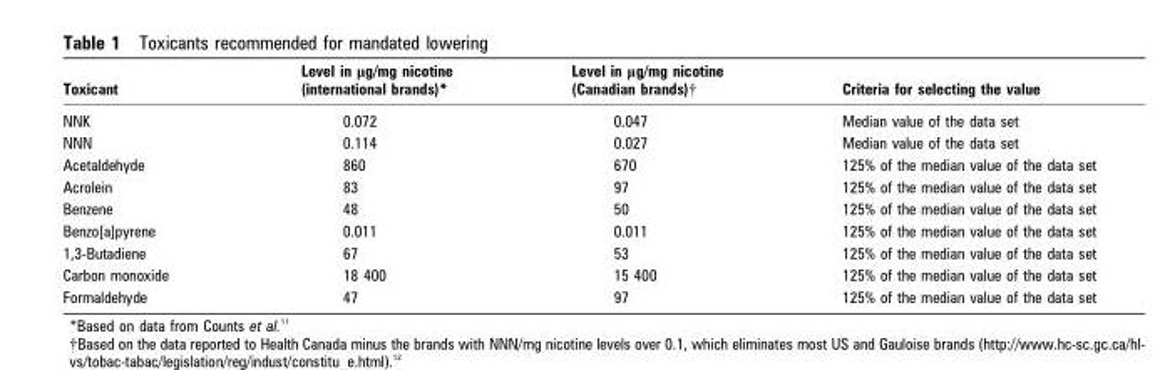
<table><thead><tr><td>Toxicant</td><td>Level in μg/mg nicotine (international brands)*</td><td>Level in μg/mg nicotine (Canadian brands)†</td><td>Criteria for selecting the value</td></tr></thead><tbody><tr><td>NNK</td><td>0.072</td><td>0.047</td><td>Median value of the data set</td></tr><tr><td>NNN</td><td>0.114</td><td>0.027</td><td>Median value of the data set</td></tr><tr><td>Acetaldehyde</td><td>860</td><td>670</td><td>125% of the median value of the data set</td></tr><tr><td>Acrolein</td><td>83</td><td>97</td><td>125% of the median value of the data set</td></tr><tr><td>Benzene</td><td>48</td><td>50</td><td>125% of the median value of the data set</td></tr><tr><td>Benzo[a]pyrene</td><td>0.011</td><td>0.011</td><td>125% of the median value of the data set</td></tr><tr><td>1,3-Butadiene</td><td>67</td><td>53</td><td>125% of the median value of the data set</td></tr><tr><td>Carbon monoxide</td><td>18 400</td><td>15 400</td><td>125% of the median value of the data set</td></tr><tr><td>Formaldehyde</td><td>47</td><td>97</td><td>125% of the median value of the data set</td></tr></tbody></table>